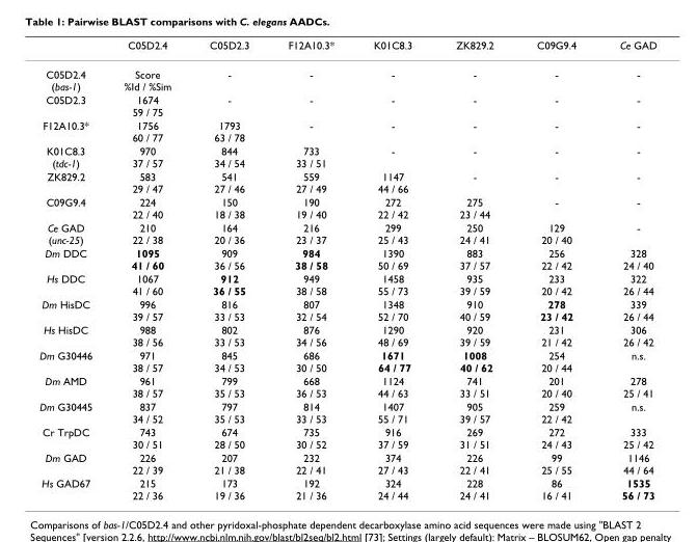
<table><thead><tr><td></td><td>C05D2.4</td><td>C05D2.3</td><td>F12A10.3*</td><td>K01C8.3</td><td>ZK829.2</td><td>C09G9.4</td><td>Ce GAD</td></tr></thead><tbody><tr><td>C05D2.4 (bas-1)</td><td>Score %Id / %Sim</td><td>-</td><td>-</td><td>-</td><td>-</td><td>-</td><td>-</td></tr><tr><td>C05D2.3</td><td>1674 59 / 75</td><td>-</td><td>-</td><td>-</td><td>-</td><td>-</td><td>-</td></tr><tr><td>F12A10.3*</td><td>1756 60 / 77</td><td>1793 63 / 78</td><td>-</td><td>-</td><td>-</td><td>-</td><td>-</td></tr><tr><td>K01C8.3 (tdc-1)</td><td>970 37 / 57</td><td>844 34 / 54</td><td>733 33 / 51</td><td>-</td><td>-</td><td>-</td><td>-</td></tr><tr><td>ZK829.2</td><td>583 29 / 47</td><td>541 27 / 46</td><td>559 27 / 49</td><td>1147 44 / 66</td><td>-</td><td>-</td><td>-</td></tr><tr><td>C09G9.4</td><td>224 22 / 40</td><td>150 18 / 38</td><td>190 19 / 40</td><td>272 22 / 42</td><td>275 23 / 44</td><td>-</td><td>-</td></tr><tr><td>Ce GAD (unc-25)</td><td>210 22 / 38</td><td>164 20 / 36</td><td>216 23 / 37</td><td>299 25 / 43</td><td>250 24 / 41</td><td>129 20 / 40</td><td>-</td></tr><tr><td>Dm DDC</td><td>1095 41 / 60</td><td>909 36 / 56</td><td>984 38 / 58</td><td>1390 50 / 69</td><td>883 37 / 57</td><td>256 22 / 42</td><td>328 24 / 40</td></tr><tr><td>Hs DDC</td><td>1067 41 / 60</td><td>912 36 / 55</td><td>949 38 / 58</td><td>1458 55 / 73</td><td>935 39 / 59</td><td>233 20 / 42</td><td>322 26 / 44</td></tr><tr><td>Dm HisDC</td><td>996 39 / 57</td><td>816 33 / 53</td><td>807 32 / 54</td><td>1348 52 / 70</td><td>910 40 / 59</td><td>278 23 / 42</td><td>339 26 / 44</td></tr><tr><td>Hs HisDC</td><td>988 38 / 56</td><td>802 33 / 53</td><td>876 34 / 56</td><td>1290 48 / 69</td><td>920 39 / 59</td><td>231 21 / 42</td><td>306 26 / 42</td></tr><tr><td>Dm G30446</td><td>971 38 / 57</td><td>845 34 / 53</td><td>686 30 / 50</td><td>1671 64 / 77</td><td>1008 40 / 62</td><td>254 20 / 44</td><td>n.s.</td></tr><tr><td>Dm AMD</td><td>961 38 / 57</td><td>799 35 / 53</td><td>668 36 / 53</td><td>1124 44 / 63</td><td>741 33 / 51</td><td>201 20 / 40</td><td>278 25 / 41</td></tr><tr><td>Dm G30445</td><td>837 34 / 52</td><td>797 35 / 53</td><td>814 33 / 53</td><td>1407 55 / 71</td><td>905 39 / 57</td><td>259 22 / 42</td><td>n.s.</td></tr><tr><td>Cr TrpDC</td><td>743 30 / 51</td><td>674 28 / 50</td><td>735 30 / 52</td><td>916 37 / 59</td><td>269 31 / 51</td><td>272 24 / 43</td><td>333 25 / 42</td></tr><tr><td>Dm GAD</td><td>226 22 / 39</td><td>207 21 / 38</td><td>232 22 / 41</td><td>374 27 / 43</td><td>226 22 / 41</td><td>99 25 / 55</td><td>1146 44 / 64</td></tr><tr><td>Hs GAD67</td><td>215 22 / 36</td><td>173 19 / 36</td><td>192 21 / 36</td><td>324 24 / 44</td><td>228 24 / 41</td><td>86 16 / 41</td><td>1535 56 / 73</td></tr></tbody></table>